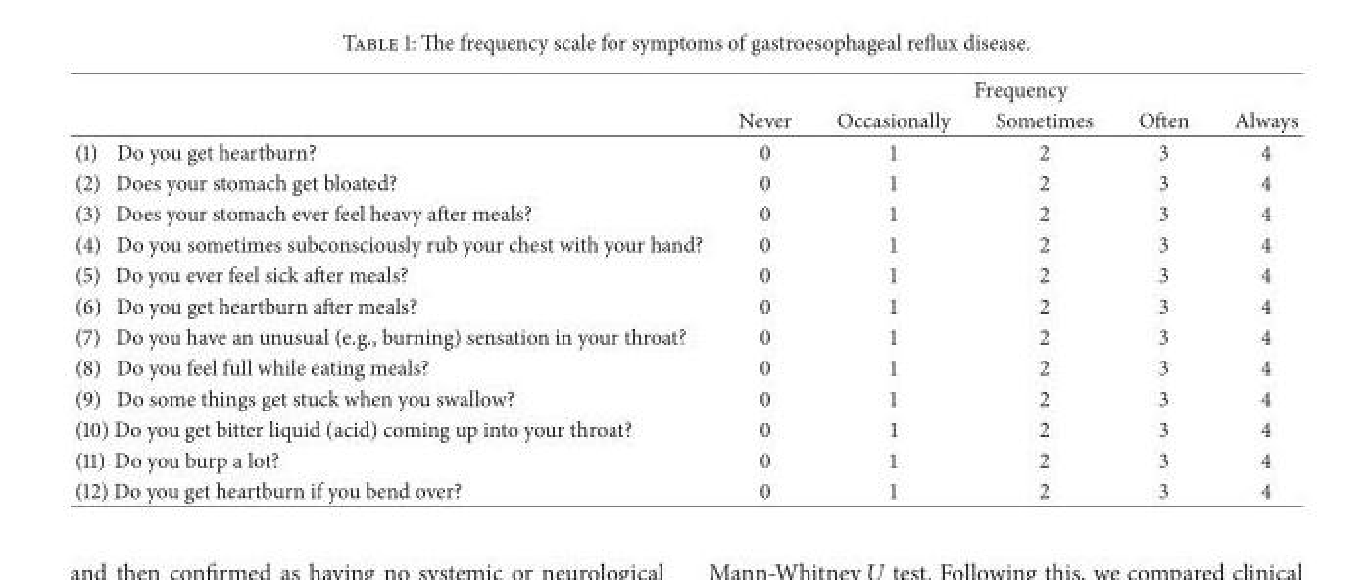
<table><thead><tr><td rowspan="2"></td><td colspan="5">Frequency</td></tr><tr><td>Never</td><td>Occasionally</td><td>Sometimes</td><td>Often</td><td>Always</td></tr></thead><tbody><tr><td>(1) Do you get heartburn?</td><td>0</td><td>1</td><td>2</td><td>3</td><td>4</td></tr><tr><td>(2) Does your stomach get bloated?</td><td>0</td><td>1</td><td>2</td><td>3</td><td>4</td></tr><tr><td>(3) Does your stomach ever feel heavy after meals?</td><td>0</td><td>1</td><td>2</td><td>3</td><td>4</td></tr><tr><td>(4) Do you sometimes subconsciously rub your chest with your hand?</td><td>0</td><td>1</td><td>2</td><td>3</td><td>4</td></tr><tr><td>(5) Do you ever feel sick after meals?</td><td>0</td><td>1</td><td>2</td><td>3</td><td>4</td></tr><tr><td>(6) Do you get heartburn after meals?</td><td>0</td><td>1</td><td>2</td><td>3</td><td>4</td></tr><tr><td>(7) Do you have an unusual (e.g., burning) sensation in your throat?</td><td>0</td><td>1</td><td>2</td><td>3</td><td>4</td></tr><tr><td>(8) Do you feel full while eating meals?</td><td>0</td><td>1</td><td>2</td><td>3</td><td>4</td></tr><tr><td>(9) Do some things get stuck when you swallow?</td><td>0</td><td>1</td><td>2</td><td>3</td><td>4</td></tr><tr><td>(10) Do you get bitter liquid (acid) coming up into your throat?</td><td>0</td><td>1</td><td>2</td><td>3</td><td>4</td></tr><tr><td>(11) Do you burp a lot?</td><td>0</td><td>1</td><td>2</td><td>3</td><td>4</td></tr><tr><td>(12) Do you get heartburn if you bend over?</td><td>0</td><td>1</td><td>2</td><td>3</td><td>4</td></tr></tbody></table>